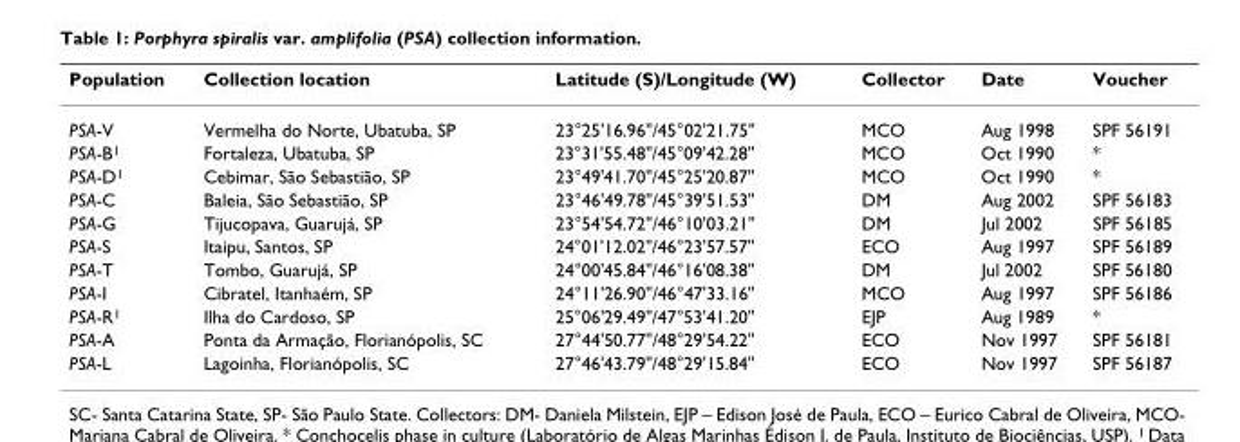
<table><thead><tr><td>Population</td><td>Collection location</td><td>Latitude (S)/Longitude (W)</td><td>Collector</td><td>Date</td><td>Voucher</td></tr></thead><tbody><tr><td>PSA-V</td><td>Vermelha do Norte, Ubatuba, SP</td><td>23°25&#x27;16.96&quot;/45°02&#x27;21.75&quot;</td><td>MCO</td><td>Aug 1998</td><td>SPF 56191</td></tr><tr><td>PSA-B<sup>1</sup></td><td>Fortaleza, Ubatuba, SP</td><td>23°31&#x27;55.48&quot;/45°09&#x27;42.28&quot;</td><td>MCO</td><td>Oct 1990</td><td>*</td></tr><tr><td>PSA-D<sup>1</sup></td><td>Cebimar, São Sebastião, SP</td><td>23°49&#x27;41.70&quot;/45°25&#x27;20.87&quot;</td><td>MCO</td><td>Oct 1990</td><td>*</td></tr><tr><td>PSA-C</td><td>Baleia, São Sebastião, SP</td><td>23°46&#x27;49.78&quot;/45°39&#x27;51.53&quot;</td><td>DM</td><td>Aug 2002</td><td>SPF 56183</td></tr><tr><td>PSA-G</td><td>Tijucopava, Guarujá, SP</td><td>23°54&#x27;54.72&quot;/46°10&#x27;03.21&quot;</td><td>DM</td><td>Jul 2002</td><td>SPF 56185</td></tr><tr><td>PSA-S</td><td>Itaipu, Santos, SP</td><td>24°01&#x27;12.02&quot;/46°23&#x27;57.57&quot;</td><td>ECO</td><td>Aug 1997</td><td>SPF 56189</td></tr><tr><td>PSA-T</td><td>Tombo, Guarujá, SP</td><td>24°00&#x27;45.84&quot;/46°16&#x27;08.38&quot;</td><td>DM</td><td>Jul 2002</td><td>SPF 56180</td></tr><tr><td>PSA-I</td><td>Cibratel, Itanhaém, SP</td><td>24°11&#x27;26.90&quot;/46°47&#x27;33.16&quot;</td><td>MCO</td><td>Aug 1997</td><td>SPF 56186</td></tr><tr><td>PSA-R<sup>1</sup></td><td>Ilha do Cardoso, SP</td><td>25°06&#x27;29.49&quot;/47°53&#x27;41.20&quot;</td><td>EJP</td><td>Aug 1989</td><td>*</td></tr><tr><td>PSA-A</td><td>Ponta da Armação, Florianópolis, SC</td><td>27°44&#x27;50.77&quot;/48°29&#x27;54.22&quot;</td><td>ECO</td><td>Nov 1997</td><td>SPF 56181</td></tr><tr><td>PSA-L</td><td>Lagoinha, Florianópolis, SC</td><td>27°46&#x27;43.79&quot;/48°29&#x27;15.84&quot;</td><td>ECO</td><td>Nov 1997</td><td>SPF 56187</td></tr></tbody></table>